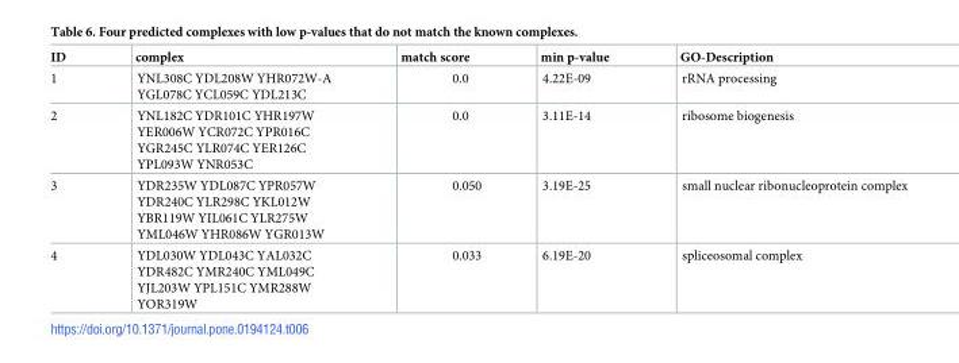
<table><thead><tr><td>ID</td><td>complex</td><td>match score</td><td>min p-value</td><td>GO-Description</td></tr></thead><tbody><tr><td>1</td><td>YNL308C YDL208W YHR072W-A YGL078C YCL059C YDL213C</td><td>0.0</td><td>4.22E-09</td><td>rRNA processing</td></tr><tr><td>2</td><td>YNL182C YDR101C YHR197W YER006W YCR072C YPR016C YGR245C YLR074C YER126C YPL093W YNR053C</td><td>0.0</td><td>3.11E-14</td><td>ribosome biogenesis</td></tr><tr><td>3</td><td>YDR235W YDL087C YPR057W YDR240C YLR298C YKL012W YBR119W YIL061C YLR275W YML046W YHR086W YGR013W</td><td>0.050</td><td>3.19E-25</td><td>small nuclear ribonucleoprotein complex</td></tr><tr><td>4</td><td>YDL030W YDL043C YAL032C YDR482C YMR240C YML049C YJL203W YPL151C YMR288W YOR319W</td><td>0.033</td><td>6.19E-20</td><td>spliceosomal complex</td></tr></tbody></table>